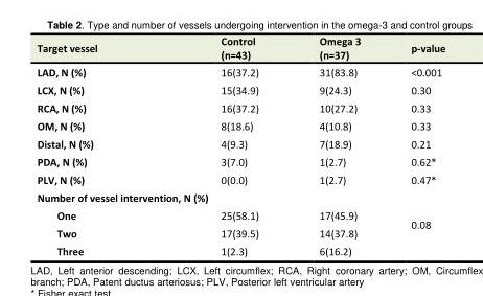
<table><tbody><tr><td>Target vessel</td><td>Control (n=43)</td><td>Omega 3 (n=37)</td><td>p-value</td></tr><tr><td>LAD, N (%)</td><td>16(37.2)</td><td>31(83.8)</td><td>&lt;0.001</td></tr><tr><td>LCX, N (%)</td><td>15(34.9)</td><td>9(24.3)</td><td>0.30</td></tr><tr><td>RCA, N (%)</td><td>16(37.2)</td><td>10(27.2)</td><td>0.33</td></tr><tr><td>OM, N (%)</td><td>8(18.6)</td><td>4(10.8)</td><td>0.33</td></tr><tr><td>Distal, N (%)</td><td>4(9.3)</td><td>7(18.9)</td><td>0.21</td></tr><tr><td>PDA, N (%)</td><td>3(7.0)</td><td>1(2.7)</td><td>0.62*</td></tr><tr><td>PLV, N (%)</td><td>0(0.0)</td><td>1(2.7)</td><td>0.47*</td></tr><tr><td colspan="3">Number of vessel intervention, N (%)</td><td rowspan="4">0.08</td></tr><tr><td>One</td><td>25(58.1)</td><td>17(45.9)</td></tr><tr><td>Two</td><td>17(39.5)</td><td>14(37.8)</td></tr><tr><td>Three</td><td>1(2.3)</td><td>6(16.2)</td></tr></tbody></table>